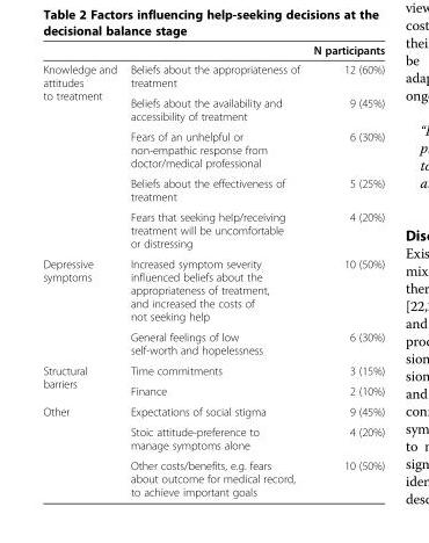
<table><thead><tr><td></td><td></td><td>N participants</td></tr></thead><tbody><tr><td rowspan="5">Knowledge and attitudes to treatment</td><td>Beliefs about the appropriateness of treatment</td><td>12 (60%)</td></tr><tr><td>Beliefs about the availability and accessibility of treatment</td><td>9 (45%)</td></tr><tr><td>Fears of an unhelpful or non-empathic response from doctor/medical professional</td><td>6 (30%)</td></tr><tr><td>Beliefs about the effectiveness of treatment</td><td>5 (25%)</td></tr><tr><td>Fears that seeking help/receiving treatment will be uncomfortable or distressing</td><td>4 (20%)</td></tr><tr><td rowspan="2">Depressive symptoms</td><td>Increased symptom severity influenced beliefs about the appropriateness of treatment, and increased the costs of not seeking help</td><td>10 (50%)</td></tr><tr><td>General feelings of low self-worth and hopelessness</td><td>6 (30%)</td></tr><tr><td rowspan="2">Structural barriers</td><td>Time commitments</td><td>3 (15%)</td></tr><tr><td>Finance</td><td>2 (10%)</td></tr><tr><td rowspan="3">Other</td><td>Expectations of social stigma</td><td>9 (45%)</td></tr><tr><td>Stoic attitude-preference to manage symptoms alone</td><td>4 (20%)</td></tr><tr><td>Other costs/benefits, e.g. fears about outcome for medical record, to achieve important goals</td><td>10 (50%)</td></tr></tbody></table>